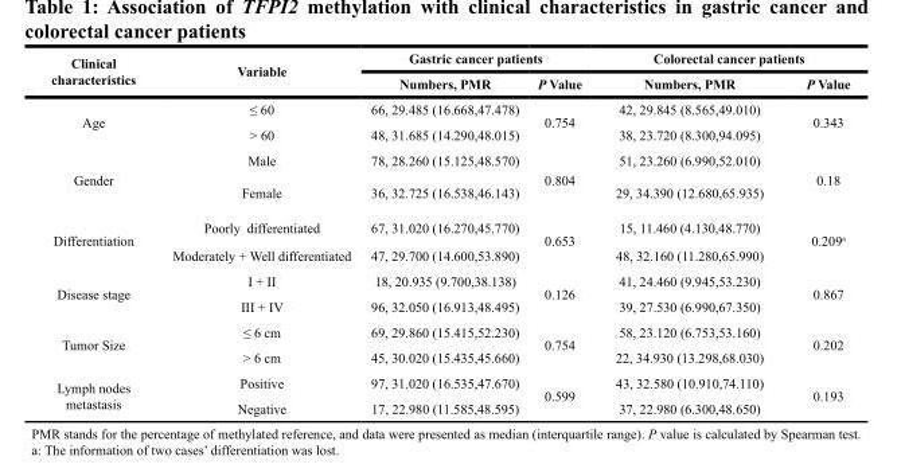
<table><thead><tr><td rowspan="2">Clinical characteristics</td><td rowspan="2">Variable</td><td colspan="2">Gastric cancer patients</td><td colspan="2">Colorectal cancer patients</td></tr><tr><td>Numbers, PMR</td><td>P Value</td><td>Numbers, PMR</td><td>P Value</td></tr></thead><tbody><tr><td rowspan="2">Age</td><td>≤ 60</td><td>66, 29.485 (16.668,47.478)</td><td rowspan="2">0.754</td><td>42, 29.845 (8.565,49.010)</td><td rowspan="2">0.343</td></tr><tr><td>&gt; 60</td><td>48, 31.685 (14.290,48.015)</td><td>38, 23.720 (8.300,94.095)</td></tr><tr><td rowspan="2">Gender</td><td>Male</td><td>78, 28.260 (15.125,48.570)</td><td rowspan="2">0.804</td><td>51, 23.260 (6.990,52.010)</td><td rowspan="2">0.18</td></tr><tr><td>Female</td><td>36, 32.725 (16.538,46.143)</td><td>29, 34.390 (12.680,65.935)</td></tr><tr><td rowspan="2">Differentiation</td><td>Poorly differentiated</td><td>67, 31.020 (16.270,45.770)</td><td rowspan="2">0.653</td><td>15, 11.460 (4.130,48.770)</td><td rowspan="2">0.209<sup>a</sup></td></tr><tr><td>Moderately + Well differentiated</td><td>47, 29.700 (14.600,53.890)</td><td>48, 32.160 (11.280,65.990)</td></tr><tr><td rowspan="2">Disease stage</td><td>I + II</td><td>18, 20.935 (9.700,38.138)</td><td rowspan="2">0.126</td><td>41, 24.460 (9.945,53.230)</td><td rowspan="2">0.867</td></tr><tr><td>III + IV</td><td>96, 32.050 (16.913,48.495)</td><td>39, 27.530 (6.990,67.350)</td></tr><tr><td rowspan="2">Tumor Size</td><td>≤ 6 cm</td><td>69, 29.860 (15.415,52.230)</td><td rowspan="2">0.754</td><td>58, 23.120 (6.753,53.160)</td><td rowspan="2">0.202</td></tr><tr><td>&gt; 6 cm</td><td>45, 30.020 (15.435,45.660)</td><td>22, 34.930 (13.298,68.030)</td></tr><tr><td rowspan="2">Lymph nodes metastasis</td><td>Positive</td><td>97, 31.020 (16.535,47.670)</td><td rowspan="2">0.599</td><td>43, 32.580 (10.910,74.110)</td><td rowspan="2">0.193</td></tr><tr><td>Negative</td><td>17, 22.980 (11.585,48.595)</td><td>37, 22.980 (6.300,48.650)</td></tr></tbody></table>